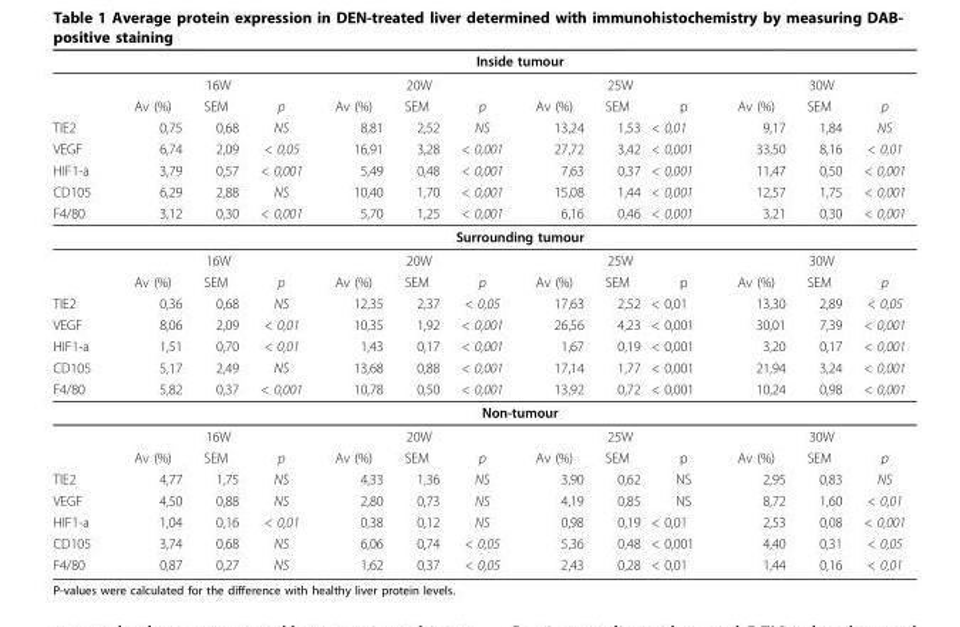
<table><thead><tr><td rowspan="3"></td><td colspan="12">Inside tumour</td></tr><tr><td colspan="3">16W</td><td colspan="3">20W</td><td colspan="3">25W</td><td colspan="3">30W</td></tr><tr><td>Av (%)</td><td>SEM</td><td>p</td><td>Av (%)</td><td>SEM</td><td>p</td><td>Av (%)</td><td>SEM</td><td>p</td><td>Av (%)</td><td>SEM</td><td>p</td></tr></thead><tbody><tr><td>TIE2</td><td>0,75</td><td>0,68</td><td>NS</td><td>8,81</td><td>2,52</td><td>NS</td><td>13,24</td><td>1,53</td><td>&lt; 0,01</td><td>9,17</td><td>1,84</td><td>NS</td></tr><tr><td>VEGF</td><td>6,74</td><td>2,09</td><td>&lt; 0,05</td><td>16,91</td><td>3,28</td><td>&lt; 0,001</td><td>27,72</td><td>3,42</td><td>&lt; 0,001</td><td>33,50</td><td>8,16</td><td>&lt; 0,01</td></tr><tr><td>HIF1-a</td><td>3,79</td><td>0,57</td><td>&lt; 0,001</td><td>5,49</td><td>0,48</td><td>&lt; 0,001</td><td>7,63</td><td>0,37</td><td>&lt; 0,001</td><td>11,47</td><td>0,50</td><td>&lt; 0,001</td></tr><tr><td>CD105</td><td>6,29</td><td>2,88</td><td>NS</td><td>10,40</td><td>1,70</td><td>&lt; 0,001</td><td>15,08</td><td>1,44</td><td>&lt; 0,001</td><td>12,57</td><td>1,75</td><td>&lt; 0,001</td></tr><tr><td rowspan="4">F4/80</td><td>3,12</td><td>0,30</td><td>&lt; 0,001</td><td>5,70</td><td>1,25</td><td>&lt; 0,001</td><td>6,16</td><td>0,46</td><td>&lt; 0,001</td><td>3,21</td><td>0,30</td><td>&lt; 0,001</td></tr><tr><td colspan="12">Surrounding tumour</td></tr><tr><td colspan="3">16W</td><td colspan="3">20W</td><td colspan="3">25W</td><td colspan="3">30W</td></tr><tr><td>Av (%)</td><td>SEM</td><td>p</td><td>Av (%)</td><td>SEM</td><td>p</td><td>Av (%)</td><td>SEM</td><td>p</td><td>Av (%)</td><td>SEM</td><td>p</td></tr><tr><td>TIE2</td><td>0,36</td><td>0,68</td><td>NS</td><td>12,35</td><td>2,37</td><td>&lt; 0,05</td><td>17,63</td><td>2,52</td><td>&lt; 0,01</td><td>13,30</td><td>2,89</td><td>&lt; 0,05</td></tr><tr><td>VEGF</td><td>8,06</td><td>2,09</td><td>&lt; 0,01</td><td>10,35</td><td>1,92</td><td>&lt; 0,001</td><td>26,56</td><td>4,23</td><td>&lt; 0,001</td><td>30,01</td><td>7,39</td><td>&lt; 0,001</td></tr><tr><td>HIF1-a</td><td>1,51</td><td>0,70</td><td>&lt; 0,01</td><td>1,43</td><td>0,17</td><td>&lt; 0,001</td><td>1,67</td><td>0,19</td><td>&lt; 0,001</td><td>3,20</td><td>0,17</td><td>&lt; 0,001</td></tr><tr><td>CD105</td><td>5,17</td><td>2,49</td><td>NS</td><td>13,68</td><td>0,88</td><td>&lt; 0,001</td><td>17,14</td><td>1,77</td><td>&lt; 0,001</td><td>21,94</td><td>3,24</td><td>&lt; 0,001</td></tr><tr><td rowspan="4">F4/80</td><td>5,82</td><td>0,37</td><td>&lt; 0,001</td><td>10,78</td><td>0,50</td><td>&lt; 0,001</td><td>13,92</td><td>0,72</td><td>&lt; 0,001</td><td>10,24</td><td>0,98</td><td>&lt; 0,001</td></tr><tr><td colspan="12">Non-tumour</td></tr><tr><td colspan="3">16W</td><td colspan="3">20W</td><td colspan="3">25W</td><td colspan="3">30W</td></tr><tr><td>Av (%)</td><td>SEM</td><td>p</td><td>Av (%)</td><td>SEM</td><td>p</td><td>Av (%)</td><td>SEM</td><td>p</td><td>Av (%)</td><td>SEM</td><td>p</td></tr><tr><td>TIE2</td><td>4,77</td><td>1,75</td><td>NS</td><td>4,33</td><td>1,36</td><td>NS</td><td>3,90</td><td>0,62</td><td>NS</td><td>2,95</td><td>0,83</td><td>NS</td></tr><tr><td>VEGF</td><td>4,50</td><td>0,88</td><td>NS</td><td>2,80</td><td>0,73</td><td>NS</td><td>4,19</td><td>0,85</td><td>NS</td><td>8,72</td><td>1,60</td><td>&lt; 0,01</td></tr><tr><td>HIF1-a</td><td>1,04</td><td>0,16</td><td>&lt; 0,01</td><td>0,38</td><td>0,12</td><td>NS</td><td>0,98</td><td>0,19</td><td>&lt; 0,01</td><td>2,53</td><td>0,08</td><td>&lt; 0,001</td></tr><tr><td>CD105</td><td>3,74</td><td>0,68</td><td>NS</td><td>6,06</td><td>0,74</td><td>&lt; 0,05</td><td>5,36</td><td>0,48</td><td>&lt; 0,001</td><td>4,40</td><td>0,31</td><td>&lt; 0,05</td></tr><tr><td>F4/80</td><td>0,87</td><td>0,27</td><td>NS</td><td>1,62</td><td>0,37</td><td>&lt; 0,05</td><td>2,43</td><td>0,28</td><td>&lt; 0,01</td><td>1,44</td><td>0,16</td><td>&lt; 0,01</td></tr></tbody></table>